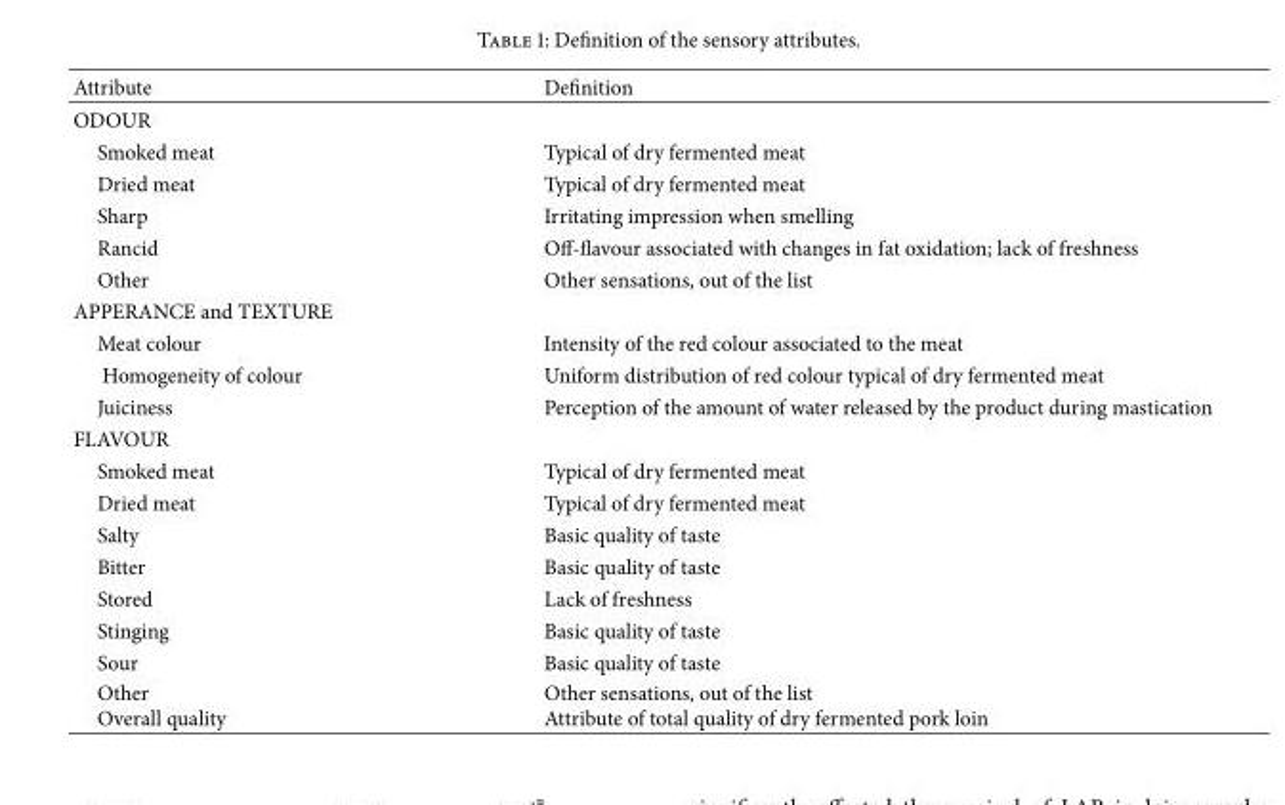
<table><thead><tr><td>Attribute</td><td>Definition</td></tr></thead><tbody><tr><td colspan="2">ODOUR</td></tr><tr><td>Smoked meat</td><td>Typical of dry fermented meat</td></tr><tr><td>Dried meat</td><td>Typical of dry fermented meat</td></tr><tr><td>Sharp</td><td>Irritating impression when smelling</td></tr><tr><td>Rancid</td><td>Off-flavour associated with changes in fat oxidation; lack of freshness</td></tr><tr><td>Other</td><td>Other sensations, out of the list</td></tr><tr><td colspan="2">APPERANCE and TEXTURE</td></tr><tr><td>Meat colour</td><td>Intensity of the red colour associated to the meat</td></tr><tr><td>Homogeneity of colour</td><td>Uniform distribution of red colour typical of dry fermented meat</td></tr><tr><td>Juiciness</td><td>Perception of the amount of water released by the product during mastication</td></tr><tr><td colspan="2">FLAVOUR</td></tr><tr><td>Smoked meat</td><td>Typical of dry fermented meat</td></tr><tr><td>Dried meat</td><td>Typical of dry fermented meat</td></tr><tr><td>Salty</td><td>Basic quality of taste</td></tr><tr><td>Bitter</td><td>Basic quality of taste</td></tr><tr><td>Stored</td><td>Lack of freshness</td></tr><tr><td>Stinging</td><td>Basic quality of taste</td></tr><tr><td>Sour</td><td>Basic quality of taste</td></tr><tr><td>Other Overall quality</td><td>Other sensations, out of the list Attribute of total quality of dry fermented pork loin</td></tr></tbody></table>